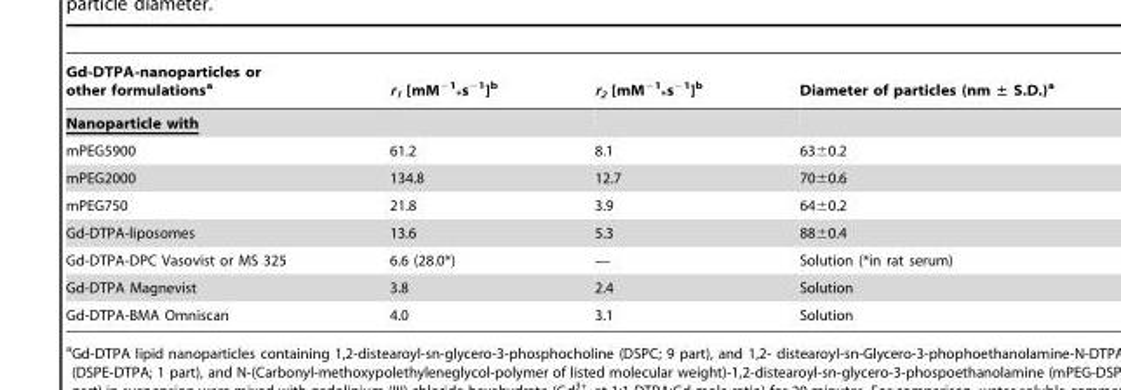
<table><thead><tr><td>Gd-DTPA-nanoparticles or other formulations<sup>a</sup></td><td>r<sub>1</sub> [mM<sup>−1</sup> <sub>*</sub>s<sup>−1</sup>]<sup>b</sup></td><td>r<sub>2</sub> [mM<sup>−1</sup> <sub>*</sub>s<sup>−1</sup>]<sup>b</sup></td><td>Diameter of particles (nm ± S.D.)<sup>a</sup></td></tr></thead><tbody><tr><td colspan="4">Nanoparticle with</td></tr><tr><td>mPEG5900</td><td>61.2</td><td>8.1</td><td>63±0.2</td></tr><tr><td>mPEG2000</td><td>134.8</td><td>12.7</td><td>70±0.6</td></tr><tr><td>mPEG750</td><td>21.8</td><td>3.9</td><td>64±0.2</td></tr><tr><td>Gd-DTPA-liposomes</td><td>13.6</td><td>5.3</td><td>88±0.4</td></tr><tr><td>Gd-DTPA-DPC Vasovist or MS 325</td><td>6.6 (28.0*)</td><td>—</td><td>Solution (*in rat serum)</td></tr><tr><td>Gd-DTPA Magnevist</td><td>3.8</td><td>2.4</td><td>Solution</td></tr><tr><td>Gd-DTPA-BMA Omniscan</td><td>4.0</td><td>3.1</td><td>Solution</td></tr></tbody></table>